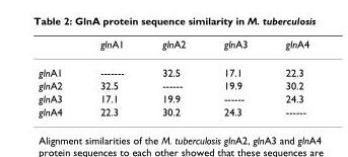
<table><thead><tr><td></td><td>glnA1</td><td>glnA2</td><td>glnA3</td><td>glnA4</td></tr></thead><tbody><tr><td>glnA1</td><td>-------</td><td>32.5</td><td>17.1</td><td>22.3</td></tr><tr><td>glnA2</td><td>32.5</td><td>------</td><td>19.9</td><td>30.2</td></tr><tr><td>glnA3</td><td>17.1</td><td>19.9</td><td>------</td><td>24.3</td></tr><tr><td>glnA4</td><td>22.3</td><td>30.2</td><td>24.3</td><td>------</td></tr></tbody></table>